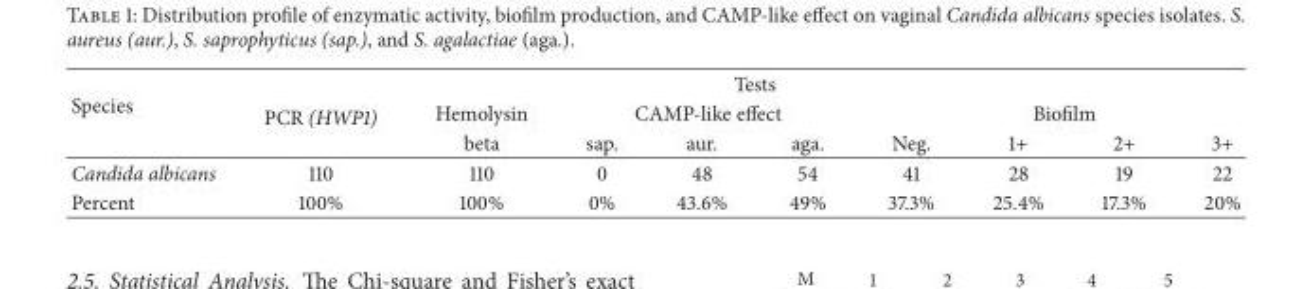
<table><thead><tr><td rowspan="3">Species</td><td colspan="9">Tests</td></tr><tr><td rowspan="2">PCR (HWP1)</td><td rowspan="2">Hemolysin beta</td><td colspan="3">CAMP-like effect</td><td colspan="4">Biofilm</td></tr><tr><td>sap.</td><td>aur.</td><td>aga.</td><td>Neg.</td><td>1+</td><td>2+</td><td>3+</td></tr></thead><tbody><tr><td>Candida albicans</td><td>110</td><td>110</td><td>0</td><td>48</td><td>54</td><td>41</td><td>28</td><td>19</td><td>22</td></tr><tr><td>Percent</td><td>100%</td><td>100%</td><td>0%</td><td>43.6%</td><td>49%</td><td>37.3%</td><td>25.4%</td><td>17.3%</td><td>20%</td></tr></tbody></table>